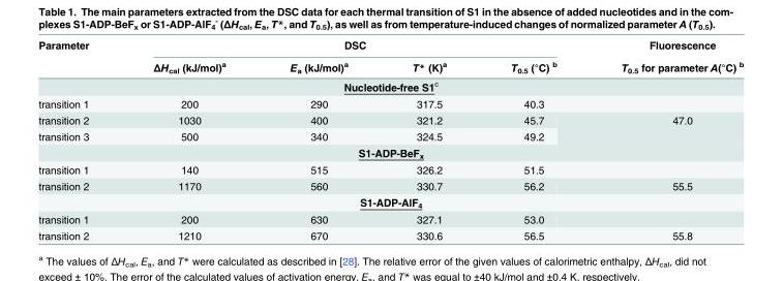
<table><thead><tr><td rowspan="2">Parameter</td><td colspan="4">DSC</td><td rowspan="2">Fluorescence T<sub>0.5</sub> for parameter A(°C) <sup>b</sup></td></tr><tr><td>ΔH<sub>cal</sub> (kJ/mol)<sup>a</sup></td><td>E<sub>a</sub> (kJ/mol)<sup>a</sup></td><td>T* (K)<sup>a</sup></td><td>T<sub>0.5</sub> (°C) <sup>b</sup></td></tr></thead><tbody><tr><td colspan="6">Nucleotide-free S1<sup>c</sup></td></tr><tr><td>transition 1</td><td>200</td><td>290</td><td>317.5</td><td>40.3</td><td></td></tr><tr><td>transition 2</td><td>1030</td><td>400</td><td>321.2</td><td>45.7</td><td rowspan="2">47.0</td></tr><tr><td>transition 3</td><td>500</td><td>340</td><td>324.5</td><td>49.2</td></tr><tr><td colspan="6">S1-ADP-BeF<sub>x</sub></td></tr><tr><td>transition 1</td><td>140</td><td>515</td><td>326.2</td><td>51.5</td><td></td></tr><tr><td>transition 2</td><td>1170</td><td>560</td><td>330.7</td><td>56.2</td><td>55.5</td></tr><tr><td colspan="6">S1-ADP-AlF<sub>4</sub></td></tr><tr><td>transition 1</td><td>200</td><td>630</td><td>327.1</td><td>53.0</td><td></td></tr><tr><td>transition 2</td><td>1210</td><td>670</td><td>330.6</td><td>56.5</td><td>55.8</td></tr></tbody></table>